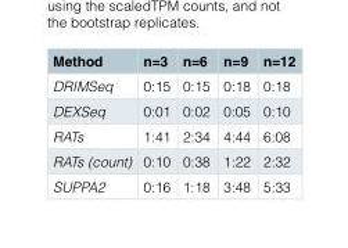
<table><thead><tr><td>Method</td><td>n=3</td><td>n=6</td><td>n=9</td><td>n=12</td></tr></thead><tbody><tr><td>DRIMSeq</td><td>0:15</td><td>0:15</td><td>0:18</td><td>0:18</td></tr><tr><td>DEXSeq</td><td>0:01</td><td>0:02</td><td>0:05</td><td>0:10</td></tr><tr><td>RATs</td><td>1:41</td><td>2:34</td><td>4:44</td><td>6:08</td></tr><tr><td>RATs (count)</td><td>0:10</td><td>0:38</td><td>1:22</td><td>2:32</td></tr><tr><td>SUPPA2</td><td>0:16</td><td>1:18</td><td>3:48</td><td>5:33</td></tr></tbody></table>